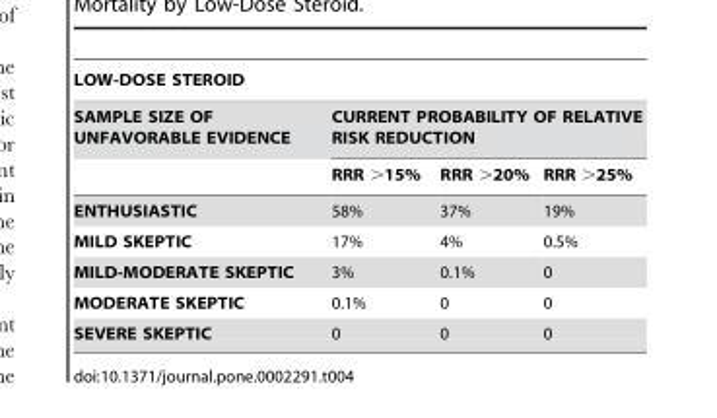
<table><thead><tr><td colspan="4">LOW-DOSE STEROID</td></tr><tr><td rowspan="2">SAMPLE SIZE OF UNFAVORABLE EVIDENCE</td><td colspan="3">CURRENT PROBABILITY OF RELATIVE RISK REDUCTION</td></tr><tr><td>RRR &gt;15%</td><td>RRR &gt;20%</td><td>RRR &gt;25%</td></tr></thead><tbody><tr><td>ENTHUSIASTIC</td><td>58%</td><td>37%</td><td>19%</td></tr><tr><td>MILD SKEPTIC</td><td>17%</td><td>4%</td><td>0.5%</td></tr><tr><td>MILD-MODERATE SKEPTIC</td><td>3%</td><td>0.1%</td><td>0</td></tr><tr><td>MODERATE SKEPTIC</td><td>0.1%</td><td>0</td><td>0</td></tr><tr><td>SEVERE SKEPTIC</td><td>0</td><td>0</td><td>0</td></tr></tbody></table>